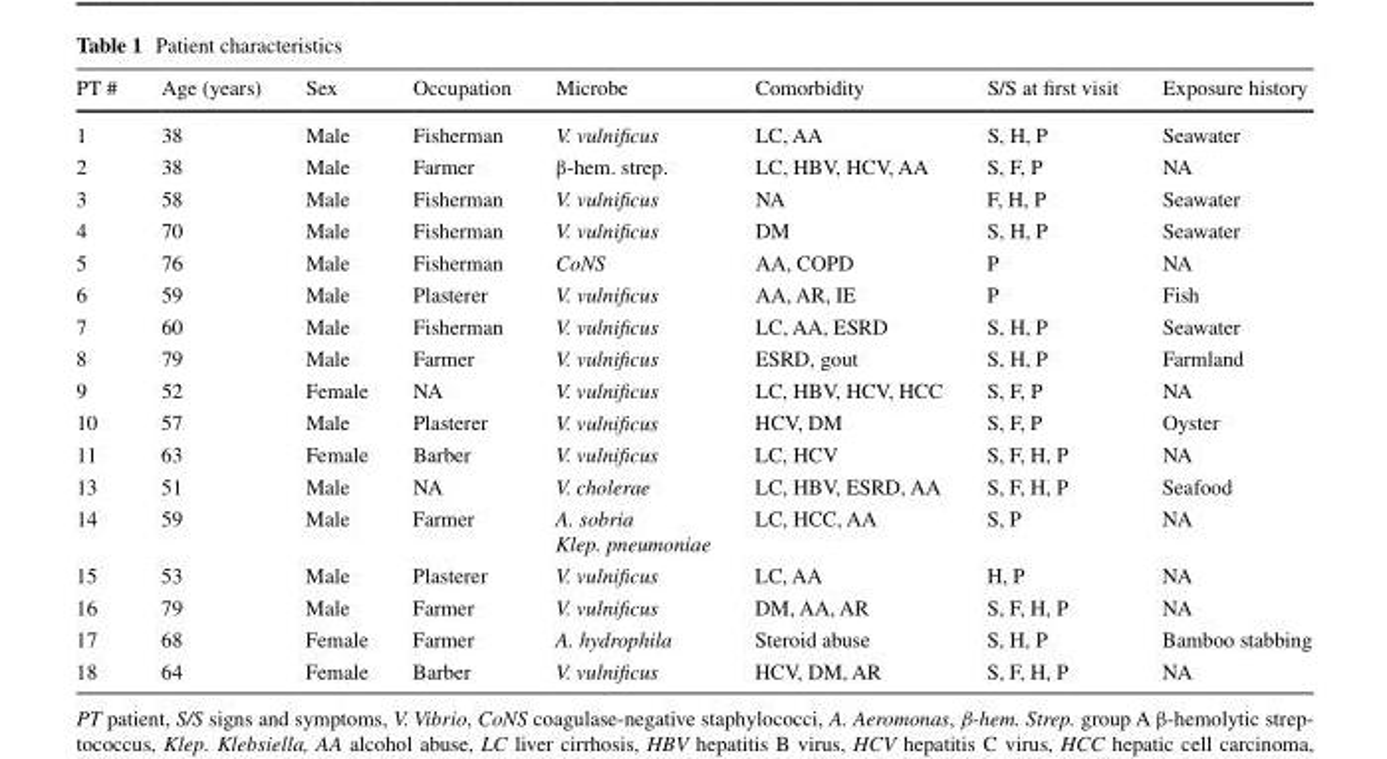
<table><thead><tr><td>PT #</td><td>Age (years)</td><td>Sex</td><td>Occupation</td><td>Microbe</td><td>Comorbidity</td><td>S/S at first visit</td><td>Exposure history</td></tr></thead><tbody><tr><td>1</td><td>38</td><td>Male</td><td>Fisherman</td><td>V. vulnificus</td><td>LC, AA</td><td>S, H, P</td><td>Seawater</td></tr><tr><td>2</td><td>38</td><td>Male</td><td>Farmer</td><td>β-hem. strep.</td><td>LC, HBV, HCV, AA</td><td>S, F, P</td><td>NA</td></tr><tr><td>3</td><td>58</td><td>Male</td><td>Fisherman</td><td>V. vulnificus</td><td>NA</td><td>F, H, P</td><td>Seawater</td></tr><tr><td>4</td><td>70</td><td>Male</td><td>Fisherman</td><td>V. vulnificus</td><td>DM</td><td>S, H, P</td><td>Seawater</td></tr><tr><td>5</td><td>76</td><td>Male</td><td>Fisherman</td><td>CoNS</td><td>AA, COPD</td><td>P</td><td>NA</td></tr><tr><td>6</td><td>59</td><td>Male</td><td>Plasterer</td><td>V. vulnificus</td><td>AA, AR, IE</td><td>P</td><td>Fish</td></tr><tr><td>7</td><td>60</td><td>Male</td><td>Fisherman</td><td>V. vulnificus</td><td>LC, AA, ESRD</td><td>S, H, P</td><td>Seawater</td></tr><tr><td>8</td><td>79</td><td>Male</td><td>Farmer</td><td>V. vulnificus</td><td>ESRD, gout</td><td>S, H, P</td><td>Farmland</td></tr><tr><td>9</td><td>52</td><td>Female</td><td>NA</td><td>V. vulnificus</td><td>LC, HBV, HCV, HCC</td><td>S, F, P</td><td>NA</td></tr><tr><td>10</td><td>57</td><td>Male</td><td>Plasterer</td><td>V. vulnificus</td><td>HCV, DM</td><td>S, F, P</td><td>Oyster</td></tr><tr><td>11</td><td>63</td><td>Female</td><td>Barber</td><td>V. vulnificus</td><td>LC, HCV</td><td>S, F, H, P</td><td>NA</td></tr><tr><td>13</td><td>51</td><td>Male</td><td>NA</td><td>V. cholerae</td><td>LC, HBV, ESRD, AA</td><td>S, F, H, P</td><td>Seafood</td></tr><tr><td>14</td><td>59</td><td>Male</td><td>Farmer</td><td>A. sobria Klep. pneumoniae</td><td>LC, HCC, AA</td><td>S, P</td><td>NA</td></tr><tr><td>15</td><td>53</td><td>Male</td><td>Plasterer</td><td>V. vulnificus</td><td>LC, AA</td><td>H, P</td><td>NA</td></tr><tr><td>16</td><td>79</td><td>Male</td><td>Farmer</td><td>V. vulnificus</td><td>DM, AA, AR</td><td>S, F, H, P</td><td>NA</td></tr><tr><td>17</td><td>68</td><td>Female</td><td>Farmer</td><td>A. hydrophila</td><td>Steroid abuse</td><td>S, H, P</td><td>Bamboo stabbing</td></tr><tr><td>18</td><td>64</td><td>Female</td><td>Barber</td><td>V. vulnificus</td><td>HCV, DM, AR</td><td>S, F, H, P</td><td>NA</td></tr></tbody></table>